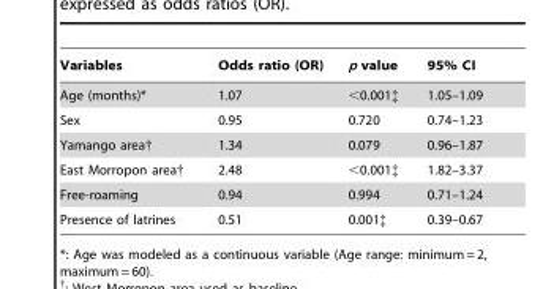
<table><thead><tr><td>Variables</td><td>Odds ratio (OR)</td><td>p value</td><td>95% CI</td></tr></thead><tbody><tr><td>Age (months)*</td><td>1.07</td><td>&lt;0.001‡</td><td>1.05–1.09</td></tr><tr><td>Sex</td><td>0.95</td><td>0.720</td><td>0.74–1.23</td></tr><tr><td>Yamango area†</td><td>1.34</td><td>0.079</td><td>0.96–1.87</td></tr><tr><td>East Morropon area†</td><td>2.48</td><td>&lt;0.001‡</td><td>1.82–3.37</td></tr><tr><td>Free-roaming</td><td>0.94</td><td>0.994</td><td>0.71–1.24</td></tr><tr><td>Presence of latrines</td><td>0.51</td><td>0.001‡</td><td>0.39–0.67</td></tr></tbody></table>